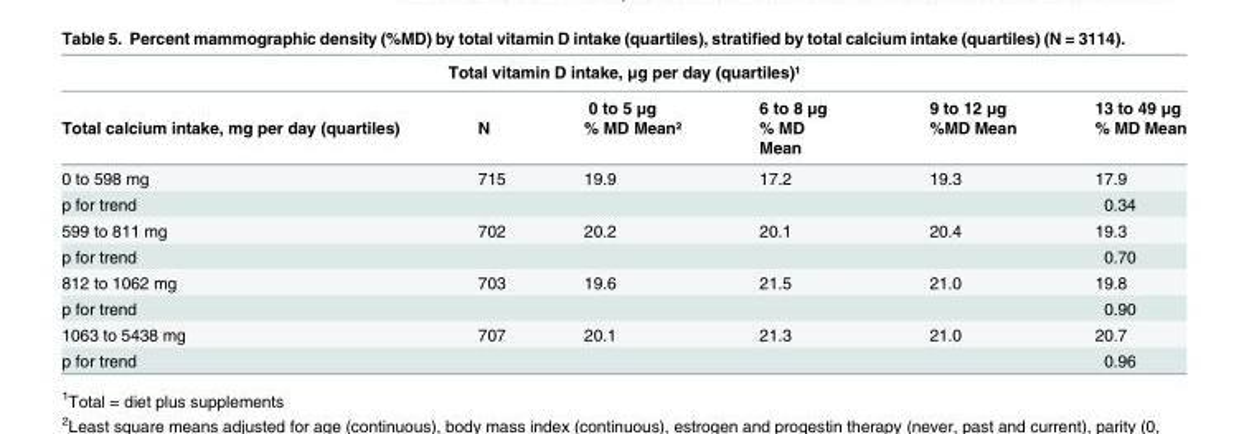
<table><thead><tr><td colspan="6">Total vitamin D intake, μg per day (quartiles)¹</td></tr><tr><td rowspan="2">Total calcium intake, mg per day (quartiles)</td><td rowspan="2">N</td><td rowspan="2">0 to 5 μg % MD Mean²</td><td rowspan="2">6 to 8 μg % MD Mean</td><td rowspan="2">9 to 12 μg %MD Mean</td><td rowspan="2">13 to 49 μg % MD Mean</td></tr><tr></tr></thead><tbody><tr><td>0 to 598 mg</td><td>715</td><td>19.9</td><td>17.2</td><td>19.3</td><td>17.9</td></tr><tr><td>p for trend</td><td></td><td></td><td></td><td></td><td>0.34</td></tr><tr><td>599 to 811 mg</td><td>702</td><td>20.2</td><td>20.1</td><td>20.4</td><td>19.3</td></tr><tr><td>p for trend</td><td></td><td></td><td></td><td></td><td>0.70</td></tr><tr><td>812 to 1062 mg</td><td>703</td><td>19.6</td><td>21.5</td><td>21.0</td><td>19.8</td></tr><tr><td>p for trend</td><td></td><td></td><td></td><td></td><td>0.90</td></tr><tr><td>1063 to 5438 mg</td><td>707</td><td>20.1</td><td>21.3</td><td>21.0</td><td>20.7</td></tr><tr><td>p for trend</td><td></td><td></td><td></td><td></td><td>0.96</td></tr></tbody></table>